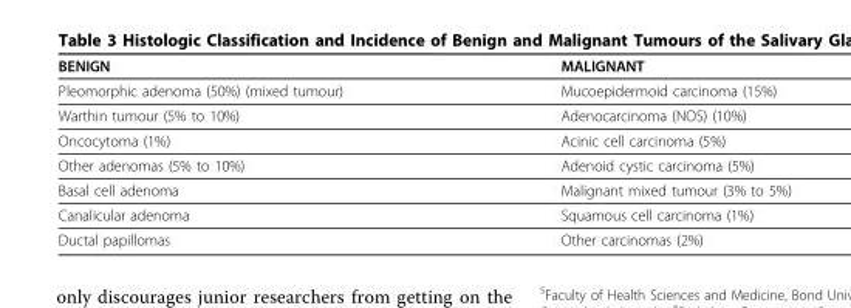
<table><thead><tr><td>BENIGN</td><td>MALIGNANT</td></tr></thead><tbody><tr><td>Pleomorphic adenoma (50%) (mixed tumour)</td><td>Mucoepidermoid carcinoma (15%)</td></tr><tr><td>Warthin tumour (5% to 10%)</td><td>Adenocarcinoma (NOS) (10%)</td></tr><tr><td>Oncocytoma (1%)</td><td>Acinic cell carcinoma (5%)</td></tr><tr><td>Other adenomas (5% to 10%)</td><td>Adenoid cystic carcinoma (5%)</td></tr><tr><td>Basal cell adenoma</td><td>Malignant mixed tumour (3% to 5%)</td></tr><tr><td>Canalicular adenoma</td><td>Squamous cell carcinoma (1%)</td></tr><tr><td>Ductal papillomas</td><td>Other carcinomas (2%)</td></tr></tbody></table>